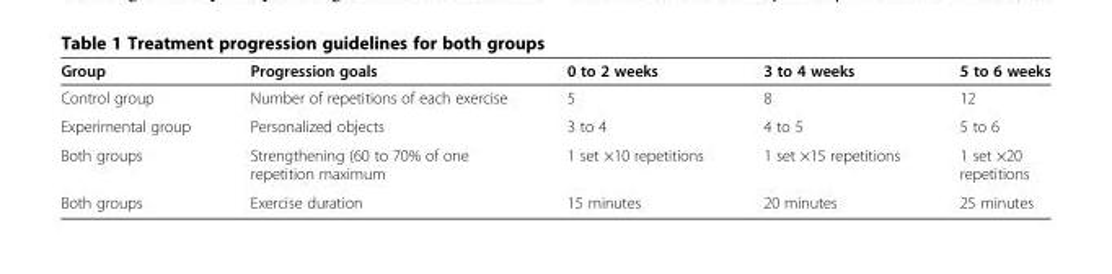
<table><thead><tr><td>Group</td><td>Progression goals</td><td>0 to 2 weeks</td><td>3 to 4 weeks</td><td>5 to 6 weeks</td></tr></thead><tbody><tr><td>Control group</td><td>Number of repetitions of each exercise</td><td>5</td><td>8</td><td>12</td></tr><tr><td>Experimental group</td><td>Personalized objects</td><td>3 to 4</td><td>4 to 5</td><td>5 to 6</td></tr><tr><td>Both groups</td><td>Strengthening (60 to 70% of one repetition maximum</td><td>1 set ×10 repetitions</td><td>1 set ×15 repetitions</td><td>1 set ×20 repetitions</td></tr><tr><td>Both groups</td><td>Exercise duration</td><td>15 minutes</td><td>20 minutes</td><td>25 minutes</td></tr></tbody></table>